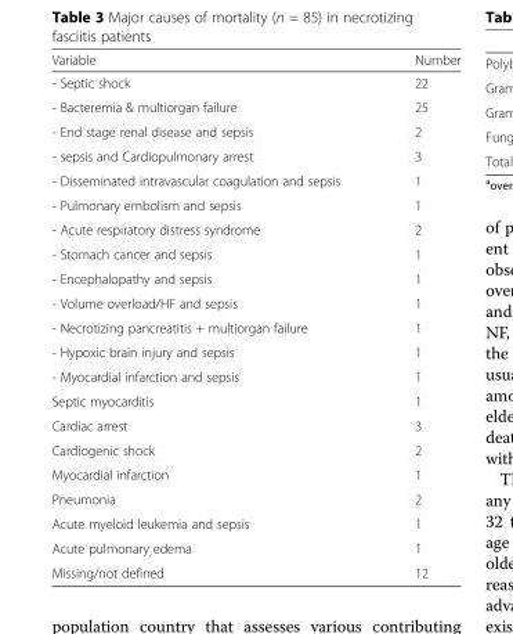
<table><thead><tr><td>Variable</td><td>Number</td></tr></thead><tbody><tr><td>- Septic shock</td><td>22</td></tr><tr><td>- Bacteremia &amp; multiorgan failure</td><td>25</td></tr><tr><td>- End stage renal disease and sepsis</td><td>2</td></tr><tr><td>- sepsis and Cardiopulmonary arrest</td><td>3</td></tr><tr><td>- Disseminated intravascular coagulation and sepsis</td><td>1</td></tr><tr><td>- Pulmonary embolism and sepsis</td><td>1</td></tr><tr><td>- Acute respiratory distress syndrome</td><td>2</td></tr><tr><td>- Stomach cancer and sepsis</td><td>1</td></tr><tr><td>- Encephalopathy and sepsis</td><td>1</td></tr><tr><td>- Volume overload/HF and sepsis</td><td>1</td></tr><tr><td>- Necrotizing pancreatitis + multiorgan failure</td><td>1</td></tr><tr><td>- Hypoxic brain injury and sepsis</td><td>1</td></tr><tr><td>- Myocardial infarction and sepsis</td><td>1</td></tr><tr><td>Septic myocarditis</td><td>1</td></tr><tr><td>Cardiac arrest</td><td>3</td></tr><tr><td>Cardiogenic shock</td><td>2</td></tr><tr><td>Myocardial infarction</td><td>1</td></tr><tr><td>Pneumonia</td><td>2</td></tr><tr><td>Acute myeloid leukemia and sepsis</td><td>1</td></tr><tr><td>Acute pulmonary edema</td><td>1</td></tr><tr><td>Missing/not defined</td><td>12</td></tr></tbody></table>